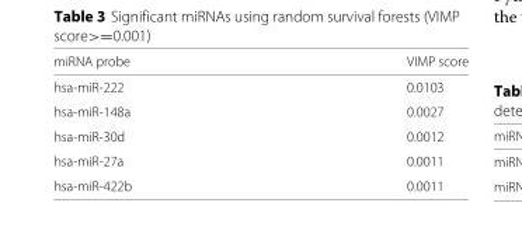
<table><thead><tr><td>miRNA probe</td><td>VIMP score</td></tr></thead><tbody><tr><td>hsa-miR-222</td><td>0.0103</td></tr><tr><td>hsa-miR-148a</td><td>0.0027</td></tr><tr><td>hsa-miR-30d</td><td>0.0012</td></tr><tr><td>hsa-miR-27a</td><td>0.0011</td></tr><tr><td>hsa-miR-422b</td><td>0.0011</td></tr></tbody></table>